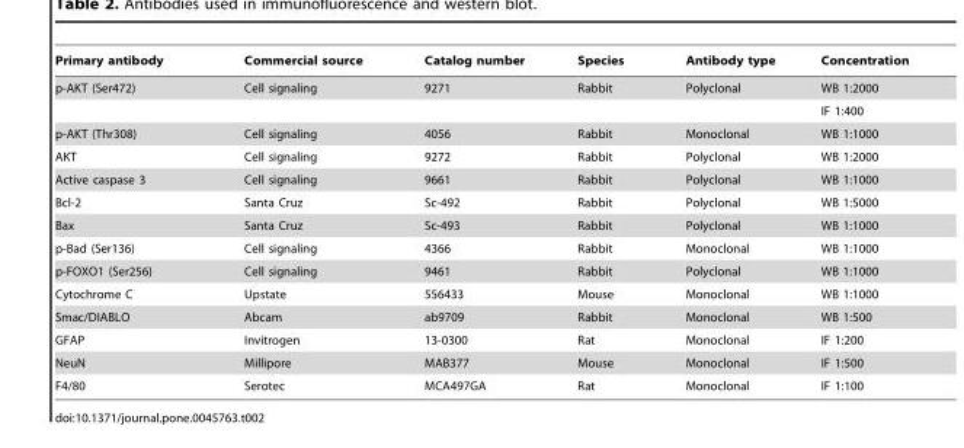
<table><thead><tr><td>Primary antibody</td><td>Commercial source</td><td>Catalog number</td><td>Species</td><td>Antibody type</td><td>Concentration</td></tr></thead><tbody><tr><td rowspan="2">p-AKT (Ser472)</td><td>Cell signaling</td><td>9271</td><td>Rabbit</td><td>Polyclonal</td><td>WB 1:2000</td></tr><tr><td></td><td></td><td></td><td></td><td>IF 1:400</td></tr><tr><td>p-AKT (Thr308)</td><td>Cell signaling</td><td>4056</td><td>Rabbit</td><td>Monoclonal</td><td>WB 1:1000</td></tr><tr><td>AKT</td><td>Cell signaling</td><td>9272</td><td>Rabbit</td><td>Polyclonal</td><td>WB 1:2000</td></tr><tr><td>Active caspase 3</td><td>Cell signaling</td><td>9661</td><td>Rabbit</td><td>Polyclonal</td><td>WB 1:1000</td></tr><tr><td>Bcl-2</td><td>Santa Cruz</td><td>Sc-492</td><td>Rabbit</td><td>Polyclonal</td><td>WB 1:5000</td></tr><tr><td>Bax</td><td>Santa Cruz</td><td>Sc-493</td><td>Rabbit</td><td>Polyclonal</td><td>WB 1:1000</td></tr><tr><td>p-Bad (Ser136)</td><td>Cell signaling</td><td>4366</td><td>Rabbit</td><td>Monoclonal</td><td>WB 1:1000</td></tr><tr><td>p-FOXO1 (Ser256)</td><td>Cell signaling</td><td>9461</td><td>Rabbit</td><td>Polyclonal</td><td>WB 1:1000</td></tr><tr><td>Cytochrome C</td><td>Upstate</td><td>556433</td><td>Mouse</td><td>Monoclonal</td><td>WB 1:1000</td></tr><tr><td>Smac/DIABLO</td><td>Abcam</td><td>ab9709</td><td>Rabbit</td><td>Monoclonal</td><td>WB 1:500</td></tr><tr><td>GFAP</td><td>Invitrogen</td><td>13-0300</td><td>Rat</td><td>Monoclonal</td><td>IF 1:200</td></tr><tr><td>NeuN</td><td>Millipore</td><td>MAB377</td><td>Mouse</td><td>Monoclonal</td><td>IF 1:500</td></tr><tr><td>F4/80</td><td>Serotec</td><td>MCA497GA</td><td>Rat</td><td>Monoclonal</td><td>IF 1:100</td></tr></tbody></table>